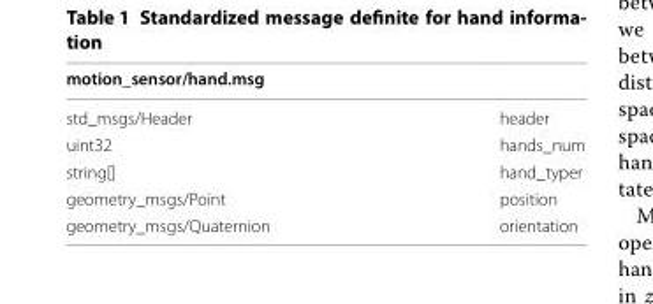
<table><thead><tr><td colspan="2">motion_sensor/hand.msg</td></tr><tr><td>std_msgs/Header</td><td>header</td></tr></thead><tbody><tr><td>uint32</td><td>hands_num</td></tr><tr><td>string[]</td><td>hand_typer</td></tr><tr><td>geometry_msgs/Point</td><td>position</td></tr><tr><td>geometry_msgs/Quaternion</td><td>orientation</td></tr></tbody></table>